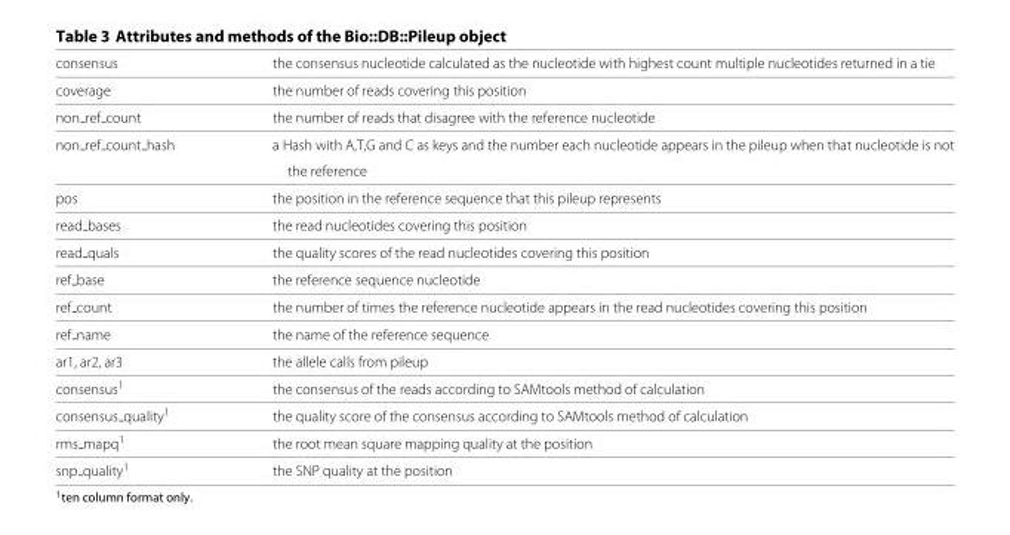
<table><thead><tr><td>consensus</td><td>the consensus nucleotide calculated as the nucleotide with highest count multiple nucleotides returned in a tie</td></tr></thead><tbody><tr><td>coverage</td><td>the number of reads covering this position</td></tr><tr><td>non <sub>ref</sub> count</td><td>the number of reads that disagree with the reference nucleotide</td></tr><tr><td rowspan="2">non ref count hash</td><td>a Hash with A,T,G and C as keys and the number each nucleotide appears in the pileup when that nucleotide is not</td></tr><tr><td>the reference</td></tr><tr><td>pos</td><td>the position in the reference sequence that this pileup represents</td></tr><tr><td>read bases</td><td>the read nucleotides covering this position</td></tr><tr><td>read quals</td><td>the quality scores of the read nucleotides covering this position</td></tr><tr><td>ref base</td><td>the reference sequence nucleotide</td></tr><tr><td>ref count</td><td>the number of times the reference nucleotide appears in the read nucleotides covering this position</td></tr><tr><td>ref name</td><td>the name of the reference sequence</td></tr><tr><td>ar1, ar2, ar3</td><td>the allele calls from pileup</td></tr><tr><td>consensus<sup>1</sup></td><td>the consensus of the reads according to SAMtools method of calculation</td></tr><tr><td>consensus quality1</td><td>the quality score of the consensus according to SAMtools method of calculation</td></tr><tr><td>rms mapq1</td><td>the root mean square mapping quality at the position</td></tr><tr><td>snp quality1</td><td>the SNP quality at the position</td></tr></tbody></table>